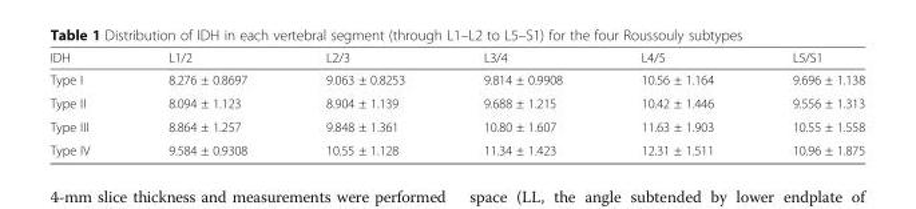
<table><thead><tr><td>IDH</td><td>L1/2</td><td>L2/3</td><td>L3/4</td><td>L4/5</td><td>L5/S1</td></tr></thead><tbody><tr><td>Type I</td><td>8.276 ± 0.8697</td><td>9.063 ± 0.8253</td><td>9.814 ± 0.9908</td><td>10.56 ± 1.164</td><td>9.696 ± 1.138</td></tr><tr><td>Type II</td><td>8.094 ± 1.123</td><td>8.904 ± 1.139</td><td>9.688 ± 1.215</td><td>10.42 ± 1.446</td><td>9.556 ± 1.313</td></tr><tr><td>Type III</td><td>8.864 ± 1.257</td><td>9.848 ± 1.361</td><td>10.80 ± 1.607</td><td>11.63 ± 1.903</td><td>10.55 ± 1.558</td></tr><tr><td>Type IV</td><td>9.584 ± 0.9308</td><td>10.55 ± 1.128</td><td>11.34 ± 1.423</td><td>12.31 ± 1.511</td><td>10.96 ± 1.875</td></tr></tbody></table>